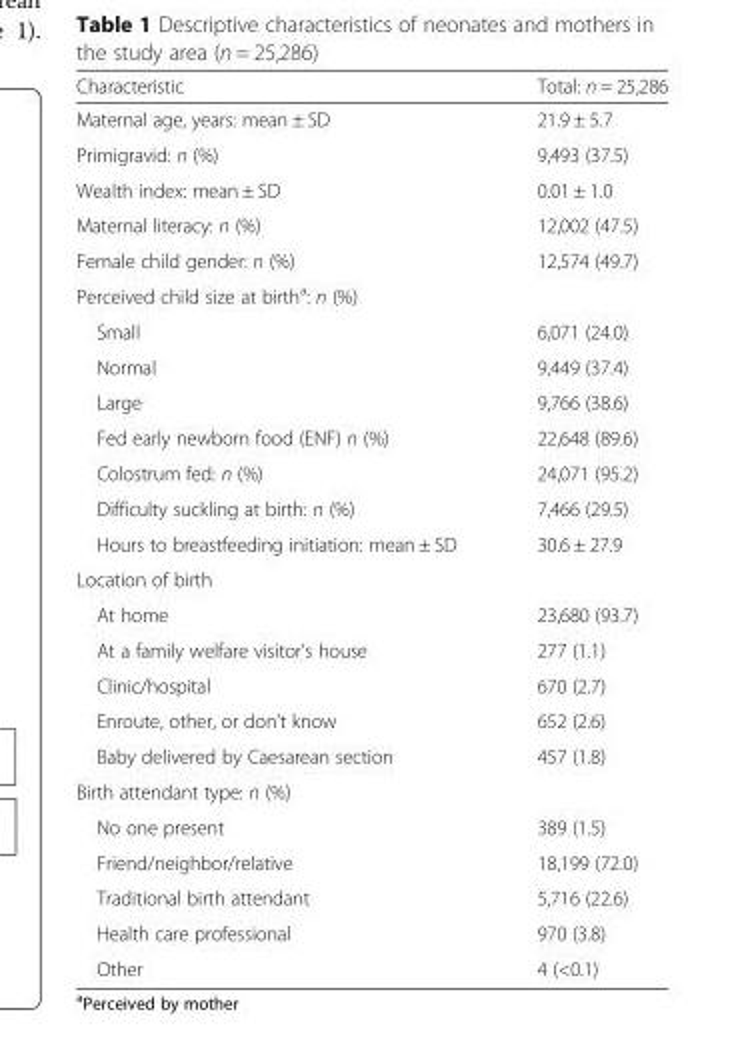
<table><thead><tr><td>Characteristic</td><td>Total: n = 25,286</td></tr></thead><tbody><tr><td>Maternal age, years: mean ± SD</td><td>21.9 ± 5.7</td></tr><tr><td>Primigravid: n (%)</td><td>9,493 (37.5)</td></tr><tr><td>Wealth index: mean ± SD</td><td>0.01 ± 1.0</td></tr><tr><td>Maternal literacy: n (%)</td><td>12,002 (47.5)</td></tr><tr><td>Female child gender: n (%)</td><td>12,574 (49.7)</td></tr><tr><td colspan="2">Perceived child size at birth<sup>a</sup>: n (%)</td></tr><tr><td>Small</td><td>6,071 (24.0)</td></tr><tr><td>Normal</td><td>9,449 (37.4)</td></tr><tr><td>Large</td><td>9,766 (38.6)</td></tr><tr><td>Fed early newborn food (ENF) n (%)</td><td>22,648 (89.6)</td></tr><tr><td>Colostrum fed: n (%)</td><td>24,071 (95.2)</td></tr><tr><td>Difficulty suckling at birth: n (%)</td><td>7,466 (29.5)</td></tr><tr><td>Hours to breastfeeding initiation: mean ± SD</td><td>30.6 ± 27.9</td></tr><tr><td colspan="2">Location of birth</td></tr><tr><td>At home</td><td>23,680 (93.7)</td></tr><tr><td>At a family welfare visitor’s house</td><td>277 (1.1)</td></tr><tr><td>Clinic/hospital</td><td>670 (2.7)</td></tr><tr><td>Enroute, other, or don’t know</td><td>652 (2.6)</td></tr><tr><td>Baby delivered by Caesarean section</td><td>457 (1.8)</td></tr><tr><td colspan="2">Birth attendant type: n (%)</td></tr><tr><td>No one present</td><td>389 (1.5)</td></tr><tr><td>Friend/neighbor/relative</td><td>18,199 (72.0)</td></tr><tr><td>Traditional birth attendant</td><td>5,716 (22.6)</td></tr><tr><td>Health care professional</td><td>970 (3.8)</td></tr><tr><td>Other</td><td>4 (&lt;0.1)</td></tr></tbody></table>